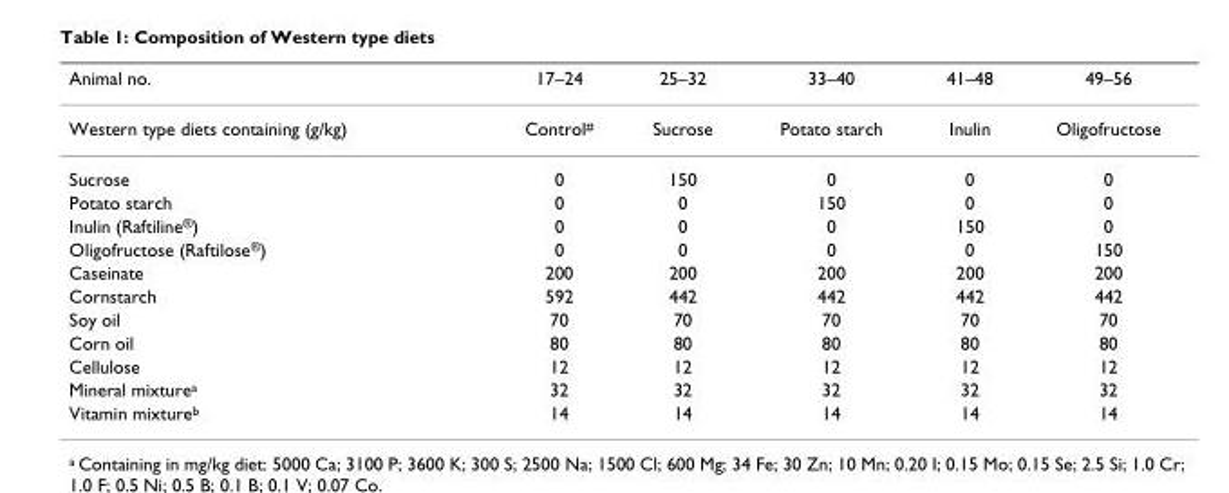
<table><thead><tr><td>Animal no.</td><td>17–24</td><td>25–32</td><td>33–40</td><td>41–48</td><td>49–56</td></tr></thead><tbody><tr><td>Western type diets containing (g/kg)</td><td>Control#</td><td>Sucrose</td><td>Potato starch</td><td>Inulin</td><td>Oligofructose</td></tr><tr><td>Sucrose</td><td>0</td><td>150</td><td>0</td><td>0</td><td>0</td></tr><tr><td>Potato starch</td><td>0</td><td>0</td><td>150</td><td>0</td><td>0</td></tr><tr><td>Inulin (Raftiline®)</td><td>0</td><td>0</td><td>0</td><td>150</td><td>0</td></tr><tr><td>Oligofructose (Raftilose®)</td><td>0</td><td>0</td><td>0</td><td>0</td><td>150</td></tr><tr><td>Caseinate</td><td>200</td><td>200</td><td>200</td><td>200</td><td>200</td></tr><tr><td>Cornstarch</td><td>592</td><td>442</td><td>442</td><td>442</td><td>442</td></tr><tr><td>Soy oil</td><td>70</td><td>70</td><td>70</td><td>70</td><td>70</td></tr><tr><td>Corn oil</td><td>80</td><td>80</td><td>80</td><td>80</td><td>80</td></tr><tr><td>Cellulose</td><td>12</td><td>12</td><td>12</td><td>12</td><td>12</td></tr><tr><td>Mineral mixturea</td><td>32</td><td>32</td><td>32</td><td>32</td><td>32</td></tr><tr><td>Vitamin mixtureb</td><td>14</td><td>14</td><td>14</td><td>14</td><td>14</td></tr></tbody></table>